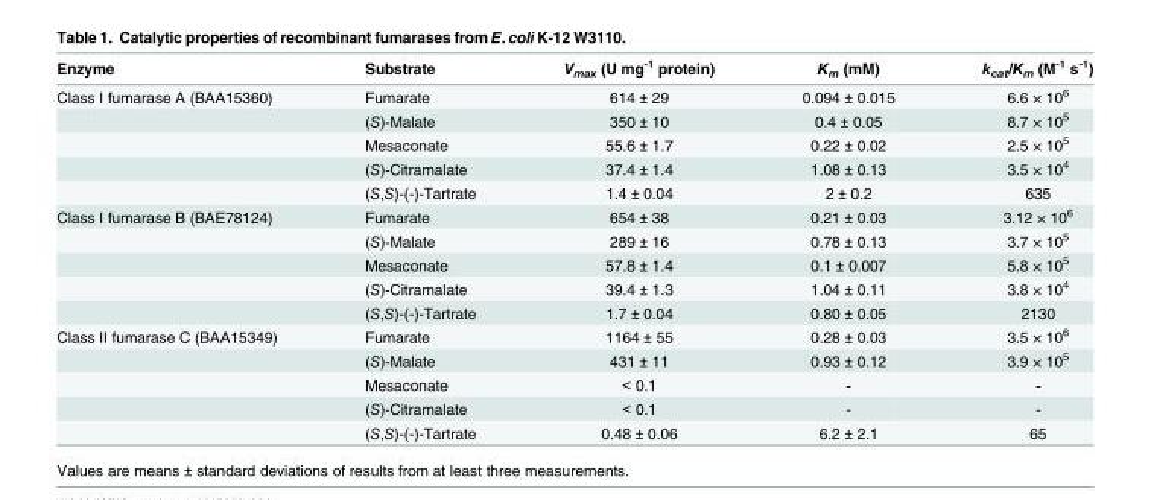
<table><thead><tr><td>Enzyme</td><td>Substrate</td><td>V<sub>max</sub> (U mg<sup>-1</sup> protein)</td><td>K<sub>m</sub> (mM)</td><td>k<sub>cat</sub>/K<sub>m</sub> (M<sup>-1</sup> s<sup>-1</sup>)</td></tr></thead><tbody><tr><td rowspan="5">Class I fumarase A (BAA15360)</td><td>Fumarate</td><td>614 ± 29</td><td>0.094 ± 0.015</td><td>6.6 × 10<sup>6</sup></td></tr><tr><td>(S)-Malate</td><td>350 ± 10</td><td>0.4 ± 0.05</td><td>8.7 × 10<sup>5</sup></td></tr><tr><td>Mesaconate</td><td>55.6 ± 1.7</td><td>0.22 ± 0.02</td><td>2.5 × 10<sup>5</sup></td></tr><tr><td>(S)-Citramalate</td><td>37.4 ± 1.4</td><td>1.08 ± 0.13</td><td>3.5 × 10<sup>4</sup></td></tr><tr><td>(S,S)-(-)-Tartrate</td><td>1.4 ± 0.04</td><td>2 ± 0.2</td><td>635</td></tr><tr><td rowspan="5">Class I fumarase B (BAE78124)</td><td>Fumarate</td><td>654 ± 38</td><td>0.21 ± 0.03</td><td>3.12 × 10<sup>6</sup></td></tr><tr><td>(S)-Malate</td><td>289 ± 16</td><td>0.78 ± 0.13</td><td>3.7 × 10<sup>5</sup></td></tr><tr><td>Mesaconate</td><td>57.8 ± 1.4</td><td>0.1 ± 0.007</td><td>5.8 × 10<sup>5</sup></td></tr><tr><td>(S)-Citramalate</td><td>39.4 ± 1.3</td><td>1.04 ± 0.11</td><td>3.8 × 10<sup>4</sup></td></tr><tr><td>(S,S)-(-)-Tartrate</td><td>1.7 ± 0.04</td><td>0.80 ± 0.05</td><td>2130</td></tr><tr><td rowspan="5">Class II fumarase C (BAA15349)</td><td>Fumarate</td><td>1164 ± 55</td><td>0.28 ± 0.03</td><td>3.5 × 10<sup>6</sup></td></tr><tr><td>(S)-Malate</td><td>431 ± 11</td><td>0.93 ± 0.12</td><td>3.9 × 10<sup>5</sup></td></tr><tr><td>Mesaconate</td><td>&lt; 0.1</td><td>-</td><td>-</td></tr><tr><td>(S)-Citramalate</td><td>&lt; 0.1</td><td>-</td><td>-</td></tr><tr><td>(S,S)-(-)-Tartrate</td><td>0.48 ± 0.06</td><td>6.2 ± 2.1</td><td>65</td></tr></tbody></table>